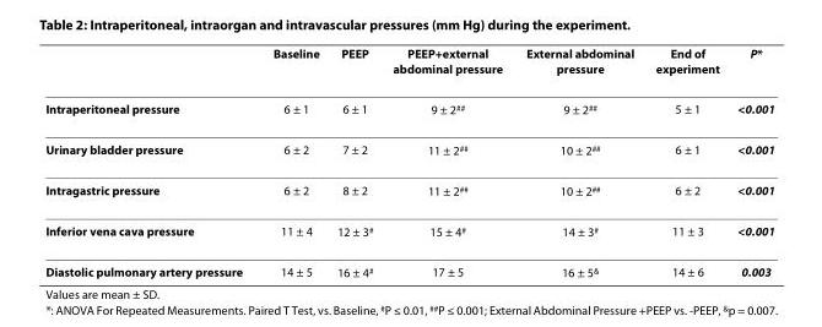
<table><thead><tr><td></td><td>Baseline</td><td>PEEP</td><td>PEEP+external abdominal pressure</td><td>External abdominal pressure</td><td>End of experiment</td><td>P*</td></tr></thead><tbody><tr><td>Intraperitoneal pressure</td><td>6 ± 1</td><td>6 ± 1</td><td>9 ± 2<sup>##</sup></td><td>9 ± 2<sup>##</sup></td><td>5 ± 1</td><td>&lt;0.001</td></tr><tr><td>Urinary bladder pressure</td><td>6 ± 2</td><td>7 ± 2</td><td>11 ± 2<sup>##</sup></td><td>10 ± 2<sup>##</sup></td><td>6 ± 1</td><td>&lt;0.001</td></tr><tr><td>Intragastric pressure</td><td>6 ± 2</td><td>8 ± 2</td><td>11 ± 2<sup>##</sup></td><td>10 ± 2<sup>##</sup></td><td>6 ± 2</td><td>&lt;0.001</td></tr><tr><td>Inferior vena cava pressure</td><td>11 ± 4</td><td>12 ± 3<sup>#</sup></td><td>15 ± 4<sup>#</sup></td><td>14 ± 3<sup>#</sup></td><td>11 ± 3</td><td>&lt;0.001</td></tr><tr><td>Diastolic pulmonary artery pressure</td><td>14 ± 5</td><td>16 ± 4<sup>#</sup></td><td>17 ± 5</td><td>16 ± 5<sup>&amp;</sup></td><td>14 ± 6</td><td>0.003</td></tr></tbody></table>